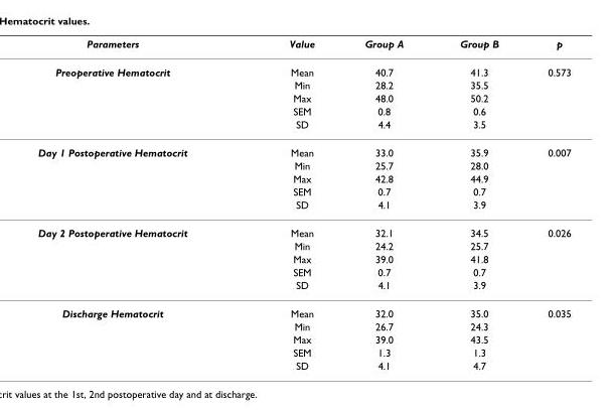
<table><thead><tr><td>Parameters</td><td>Value</td><td>Group A</td><td>Group B</td><td>p</td></tr></thead><tbody><tr><td rowspan="5">Preoperative Hematocrit</td><td>Mean</td><td>40.7</td><td>41.3</td><td>0.573</td></tr><tr><td>Min</td><td>28.2</td><td>35.5</td><td></td></tr><tr><td>Max</td><td>48.0</td><td>50.2</td><td></td></tr><tr><td>SEM</td><td>0.8</td><td>0.6</td><td></td></tr><tr><td>SD</td><td>4.4</td><td>3.5</td><td></td></tr><tr><td rowspan="5">Day 1 Postoperative Hematocrit</td><td>Mean</td><td>33.0</td><td>35.9</td><td>0.007</td></tr><tr><td>Min</td><td>25.7</td><td>28.0</td><td></td></tr><tr><td>Max</td><td>42.8</td><td>44.9</td><td></td></tr><tr><td>SEM</td><td>0.7</td><td>0.7</td><td></td></tr><tr><td>SD</td><td>4.1</td><td>3.9</td><td></td></tr><tr><td rowspan="5">Day 2 Postoperative Hematocrit</td><td>Mean</td><td>32.1</td><td>34.5</td><td>0.026</td></tr><tr><td>Min</td><td>24.2</td><td>25.7</td><td></td></tr><tr><td>Max</td><td>39.0</td><td>41.8</td><td></td></tr><tr><td>SEM</td><td>0.7</td><td>0.7</td><td></td></tr><tr><td>SD</td><td>4.1</td><td>3.9</td><td></td></tr><tr><td rowspan="5">Discharge Hematocrit</td><td>Mean</td><td>32.0</td><td>35.0</td><td>0.035</td></tr><tr><td>Min</td><td>26.7</td><td>24.3</td><td></td></tr><tr><td>Max</td><td>39.0</td><td>43.5</td><td></td></tr><tr><td>SEM</td><td>1.3</td><td>1.3</td><td></td></tr><tr><td>SD</td><td>4.1</td><td>4.7</td><td></td></tr></tbody></table>